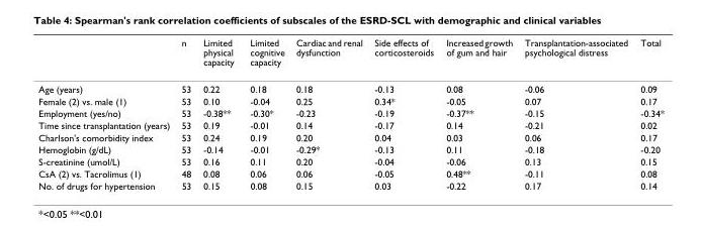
<table><thead><tr><td></td><td>n</td><td>Limited physical capacity</td><td>Limited cognitive capacity</td><td>Cardiac and renal dysfunction</td><td>Side effects of corticosteroids</td><td>Increased growth of gum and hair</td><td>Transplantation-associated psychological distress</td><td>Total</td></tr></thead><tbody><tr><td>Age (years)</td><td>53</td><td>0.22</td><td>0.18</td><td>0.18</td><td>-0.13</td><td>0.08</td><td>-0.06</td><td>0.09</td></tr><tr><td>Female (2) vs. male (1)</td><td>53</td><td>0.10</td><td>-0.04</td><td>0.25</td><td>0.34*</td><td>-0.05</td><td>0.07</td><td>0.17</td></tr><tr><td>Employment (yes/no)</td><td>53</td><td>-0.38**</td><td>-0.30*</td><td>-0.23</td><td>-0.19</td><td>-0.37**</td><td>-0.15</td><td>-0.34*</td></tr><tr><td>Time since transplantation (years)</td><td>53</td><td>0.19</td><td>-0.01</td><td>0.14</td><td>-0.17</td><td>0.14</td><td>-0.21</td><td>0.02</td></tr><tr><td>Charlson&#x27;s comorbidity index</td><td>53</td><td>0.24</td><td>0.19</td><td>0.20</td><td>0.04</td><td>0.03</td><td>0.06</td><td>0.17</td></tr><tr><td>Hemoglobin (g/dL)</td><td>53</td><td>-0.14</td><td>-0.01</td><td>-0.29*</td><td>-0.13</td><td>0.11</td><td>-0.18</td><td>-0.20</td></tr><tr><td>S-creatinine (umol/L)</td><td>53</td><td>0.16</td><td>0.11</td><td>0.20</td><td>-0.04</td><td>-0.06</td><td>0.13</td><td>0.15</td></tr><tr><td>CsA (2) vs. Tacrolimus (1)</td><td>48</td><td>0.08</td><td>0.06</td><td>0.06</td><td>-0.05</td><td>0.48**</td><td>-0.11</td><td>0.08</td></tr><tr><td>No. of drugs for hypertension</td><td>53</td><td>0.15</td><td>0.08</td><td>0.15</td><td>0.03</td><td>-0.22</td><td>0.17</td><td>0.14</td></tr></tbody></table>